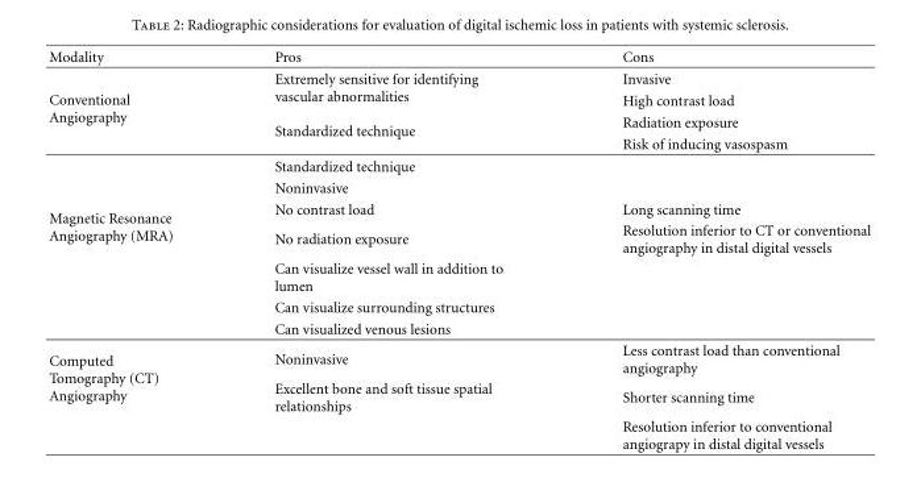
<table><thead><tr><td>Modality</td><td>Pros</td><td>Cons</td></tr></thead><tbody><tr><td rowspan="4">Conventional Angiography</td><td rowspan="2">Extremely sensitive for identifying vascular abnormalities</td><td>Invasive</td></tr><tr><td>High contrast load</td></tr><tr><td rowspan="2">Standardized technique</td><td>Radiation exposure</td></tr><tr><td>Risk of inducing vasospasm</td></tr><tr><td rowspan="7">Magnetic Resonance Angiography (MRA)</td><td>Standardized technique</td><td></td></tr><tr><td>Noninvasive</td><td></td></tr><tr><td>No contrast load</td><td>Long scanning time</td></tr><tr><td>No radiation exposure</td><td>Resolution inferior to CT or conventional angiography in distal digital vessels</td></tr><tr><td>Can visualize vessel wall in addition to lumen</td><td></td></tr><tr><td>Can visualize surrounding structures</td><td></td></tr><tr><td>Can visualized venous lesions</td><td></td></tr><tr><td rowspan="3">Computed Tomography (CT) Angiography</td><td>Noninvasive</td><td>Less contrast load than conventional angiography</td></tr><tr><td>Excellent bone and soft tissue spatial relationships</td><td>Shorter scanning time</td></tr><tr><td></td><td>Resolution inferior to conventional angiograpy in distal digital vessels</td></tr></tbody></table>